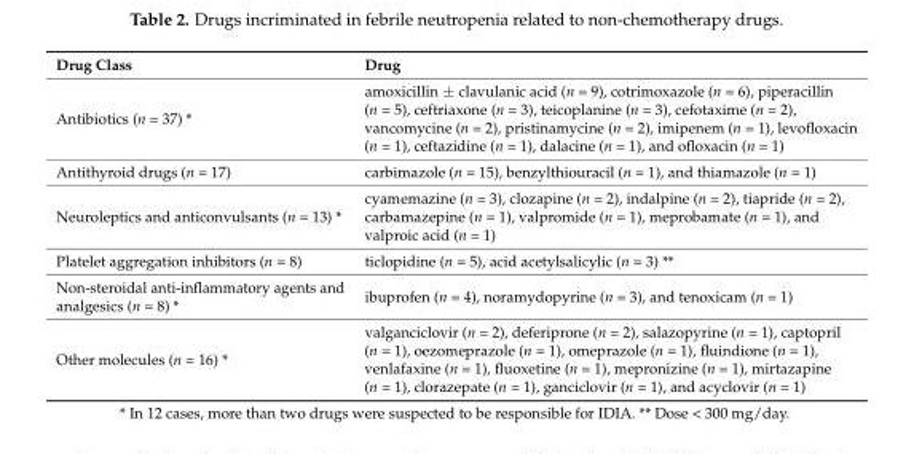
<table><thead><tr><td>Drug Class</td><td>Drug</td></tr></thead><tbody><tr><td>Antibiotics (n = 37) *</td><td>amoxicillin ± clavulanic acid (n = 9), cotrimoxazole (n = 6), piperacillin (n = 5), ceftriaxone (n = 3), teicoplanine (n = 3), cefotaxime (n = 2), vancomycine (n = 2), pristinamycine (n = 2), imipenem (n = 1), levofloxacin (n = 1), ceftazidine (n = 1), dalacine (n = 1), and ofloxacin (n = 1)</td></tr><tr><td>Antithyroid drugs (n = 17)</td><td>carbimazole (n = 15), benzylthiouracil (n = 1), and thiamazole (n = 1)</td></tr><tr><td>Neuroleptics and anticonvulsants (n = 13) *</td><td>cyamemazine (n = 3), clozapine (n = 2), indalpine (n = 2), tiapride (n = 2), carbamazepine (n = 1), valpromide (n = 1), meprobamate (n = 1), and valproic acid (n = 1)</td></tr><tr><td>Platelet aggregation inhibitors (n = 8)</td><td>ticlopidine (n = 5), acid acetylsalicylic (n = 3) **</td></tr><tr><td>Non-steroidal anti-inflammatory agents and analgesics (n = 8) *</td><td>ibuprofen (n = 4), noramydopyrine (n = 3), and tenoxicam (n = 1)</td></tr><tr><td>Other molecules (n = 16) *</td><td>valganciclovir (n = 2), deferiprone (n = 2), salazopyrine (n = 1), captopril (n = 1), oezomeprazole (n = 1), omeprazole (n = 1), fluindione (n = 1), venlafaxine (n = 1), fluoxetine (n = 1), mepronizine (n = 1), mirtazapine (n = 1), clorazepate (n = 1), ganciclovir (n = 1), and acyclovir (n = 1)</td></tr></tbody></table>